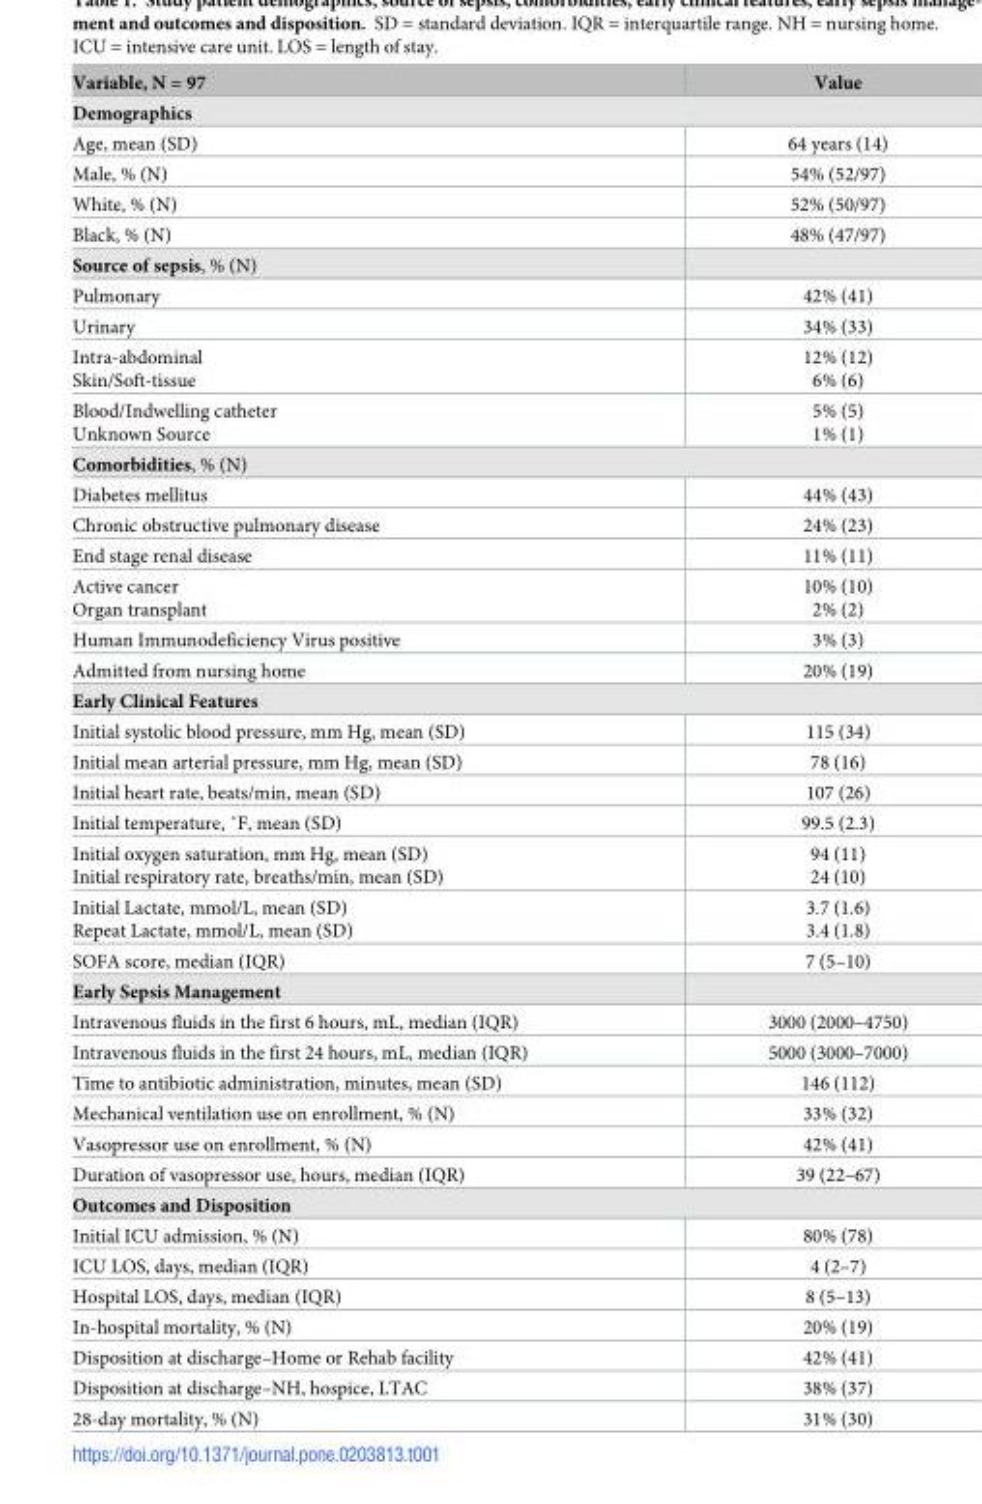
<table><thead><tr><td>Variable, N = 97</td><td>Value</td></tr></thead><tbody><tr><td colspan="2">Demographics</td></tr><tr><td>Age, mean (SD)</td><td>64 years (14)</td></tr><tr><td>Male, % (N)</td><td>54% (52/97)</td></tr><tr><td>White, % (N)</td><td>52% (50/97)</td></tr><tr><td>Black, % (N)</td><td>48% (47/97)</td></tr><tr><td colspan="2">Source of sepsis, % (N)</td></tr><tr><td>Pulmonary</td><td>42% (41)</td></tr><tr><td>Urinary</td><td>34% (33)</td></tr><tr><td>Intra-abdominal Skin/Soft-tissue</td><td>12% (12) 6% (6)</td></tr><tr><td>Blood/Indwelling catheter Unknown Source</td><td>5% (5) 1% (1)</td></tr><tr><td colspan="2">Comorbidities, % (N)</td></tr><tr><td>Diabetes mellitus</td><td>44% (43)</td></tr><tr><td>Chronic obstructive pulmonary disease</td><td>24% (23)</td></tr><tr><td>End stage renal disease</td><td>11% (11)</td></tr><tr><td>Active cancer Organ transplant</td><td>10% (10) 2% (2)</td></tr><tr><td>Human Immunodeficiency Virus positive</td><td>3% (3)</td></tr><tr><td>Admitted from nursing home</td><td>20% (19)</td></tr><tr><td colspan="2">Early Clinical Features</td></tr><tr><td>Initial systolic blood pressure, mm Hg, mean (SD)</td><td>115 (34)</td></tr><tr><td>Initial mean arterial pressure, mm Hg, mean (SD)</td><td>78 (16)</td></tr><tr><td>Initial heart rate, beats/min, mean (SD)</td><td>107 (26)</td></tr><tr><td>Initial temperature, ˚F, mean (SD)</td><td>99.5 (2.3)</td></tr><tr><td>Initial oxygen saturation, mm Hg, mean (SD) Initial respiratory rate, breaths/min, mean (SD)</td><td>94 (11) 24 (10)</td></tr><tr><td>Initial Lactate, mmol/L, mean (SD) Repeat Lactate, mmol/L, mean (SD)</td><td>3.7 (1.6) 3.4 (1.8)</td></tr><tr><td>SOFA score, median (IQR)</td><td>7 (5–10)</td></tr><tr><td colspan="2">Early Sepsis Management</td></tr><tr><td>Intravenous fluids in the first 6 hours, mL, median (IQR)</td><td>3000 (2000–4750)</td></tr><tr><td>Intravenous fluids in the first 24 hours, mL, median (IQR)</td><td>5000 (3000–7000)</td></tr><tr><td>Time to antibiotic administration, minutes, mean (SD)</td><td>146 (112)</td></tr><tr><td>Mechanical ventilation use on enrollment, % (N)</td><td>33% (32)</td></tr><tr><td>Vasopressor use on enrollment, % (N)</td><td>42% (41)</td></tr><tr><td>Duration of vasopressor use, hours, median (IQR)</td><td>39 (22–67)</td></tr><tr><td colspan="2">Outcomes and Disposition</td></tr><tr><td>Initial ICU admission, % (N)</td><td>80% (78)</td></tr><tr><td>ICU LOS, days, median (IQR)</td><td>4 (2–7)</td></tr><tr><td>Hospital LOS, days, median (IQR)</td><td>8 (5–13)</td></tr><tr><td>In-hospital mortality, % (N)</td><td>20% (19)</td></tr><tr><td>Disposition at discharge–Home or Rehab facility</td><td>42% (41)</td></tr><tr><td>Disposition at discharge–NH, hospice, LTAC</td><td>38% (37)</td></tr><tr><td>28-day mortality, % (N)</td><td>31% (30)</td></tr></tbody></table>